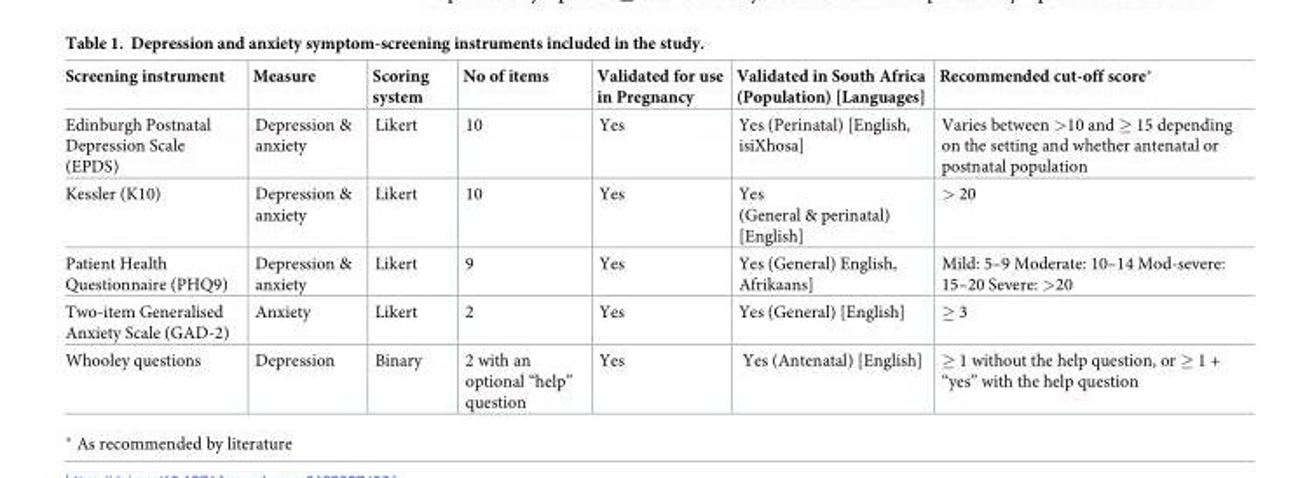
<table><thead><tr><td>Screening instrument</td><td>Measure</td><td>Scoring system</td><td>No of items</td><td>Validated for use in Pregnancy</td><td>Validated in South Africa (Population) [Languages]</td><td>Recommended cut-off score*</td></tr></thead><tbody><tr><td>Edinburgh Postnatal Depression Scale (EPDS)</td><td>Depression &amp; anxiety</td><td>Likert</td><td>10</td><td>Yes</td><td>Yes (Perinatal) [English, isiXhosa]</td><td>Varies between &gt;10 and ≥ 15 depending on the setting and whether antenatal or postnatal population</td></tr><tr><td>Kessler (K10)</td><td>Depression &amp; anxiety</td><td>Likert</td><td>10</td><td>Yes</td><td>Yes (General &amp; perinatal) [English]</td><td>&gt; 20</td></tr><tr><td>Patient Health Questionnaire (PHQ9)</td><td>Depression &amp; anxiety</td><td>Likert</td><td>9</td><td>Yes</td><td>Yes (General) English, Afrikaans]</td><td>Mild: 5–9 Moderate: 10–14 Mod-severe: 15–20 Severe: &gt;20</td></tr><tr><td>Two-item Generalised Anxiety Scale (GAD-2)</td><td>Anxiety</td><td>Likert</td><td>2</td><td>Yes</td><td>Yes (General) [English]</td><td>≥ 3</td></tr><tr><td>Whooley questions</td><td>Depression</td><td>Binary</td><td>2 with an optional “help” question</td><td>Yes</td><td>Yes (Antenatal) [English]</td><td>≥ 1 without the help question, or ≥ 1 + “yes” with the help question</td></tr></tbody></table>